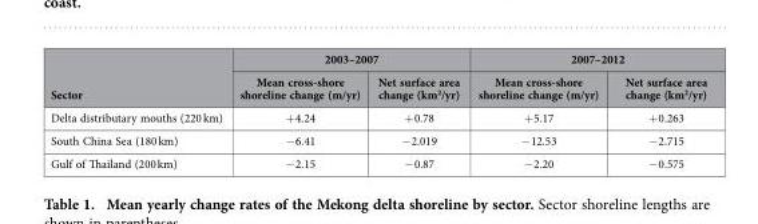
<table><thead><tr><td rowspan="2">Sector</td><td colspan="2">2003–2007</td><td colspan="2">2007–2012</td></tr><tr><td>Mean cross-shore shoreline change (m/yr)</td><td>Net surface area change (km<sup>2</sup>/yr)</td><td>Mean cross-shore shoreline change (m/yr)</td><td>Net surface area change (km<sup>2</sup>/yr)</td></tr></thead><tbody><tr><td>Delta distributary mouths (220 km)</td><td>+ 4.24</td><td>+ 0.78</td><td>+ 5.17</td><td>+ 0.263</td></tr><tr><td>South China Sea (180 km)</td><td>− 6.41</td><td>− 2.019</td><td>− 12.53</td><td>− 2.715</td></tr><tr><td>Gulf of Thailand (200 km)</td><td>− 2.15</td><td>− 0.87</td><td>− 2.20</td><td>− 0.575</td></tr></tbody></table>